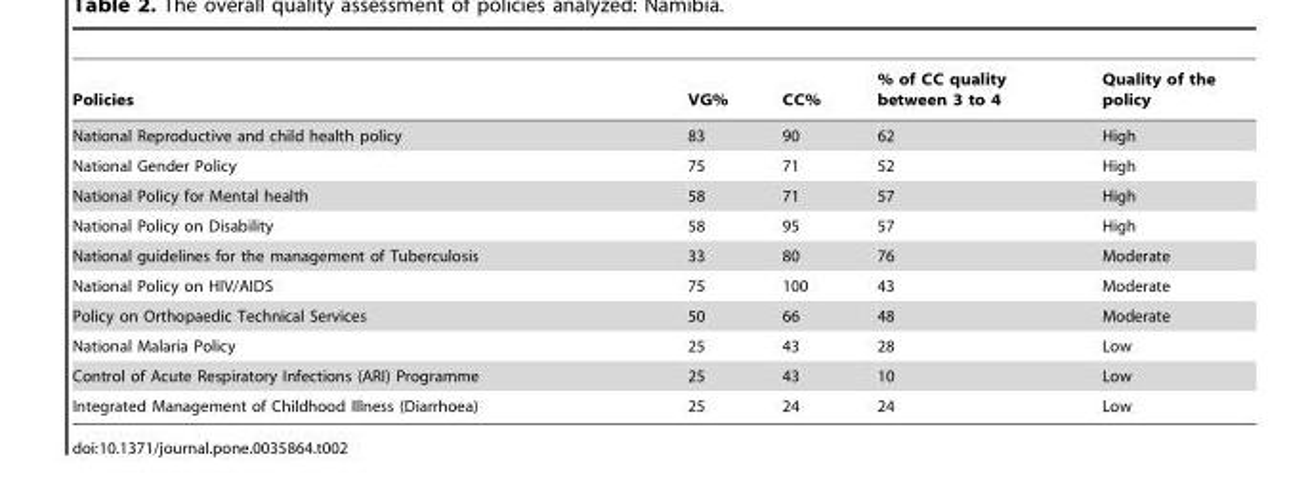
<table><thead><tr><td>Policies</td><td>VG%</td><td>CC%</td><td>% of CC quality between 3 to 4</td><td>Quality of the policy</td></tr></thead><tbody><tr><td>National Reproductive and child health policy</td><td>83</td><td>90</td><td>62</td><td>High</td></tr><tr><td>National Gender Policy</td><td>75</td><td>71</td><td>52</td><td>High</td></tr><tr><td>National Policy for Mental health</td><td>58</td><td>71</td><td>57</td><td>High</td></tr><tr><td>National Policy on Disability</td><td>58</td><td>95</td><td>57</td><td>High</td></tr><tr><td>National guidelines for the management of Tuberculosis</td><td>33</td><td>80</td><td>76</td><td>Moderate</td></tr><tr><td>National Policy on HIV/AIDS</td><td>75</td><td>100</td><td>43</td><td>Moderate</td></tr><tr><td>Policy on Orthopaedic Technical Services</td><td>50</td><td>66</td><td>48</td><td>Moderate</td></tr><tr><td>National Malaria Policy</td><td>25</td><td>43</td><td>28</td><td>Low</td></tr><tr><td>Control of Acute Respiratory Infections (ARI) Programme</td><td>25</td><td>43</td><td>10</td><td>Low</td></tr><tr><td>Integrated Management of Childhood Illness (Diarrhoea)</td><td>25</td><td>24</td><td>24</td><td>Low</td></tr></tbody></table>